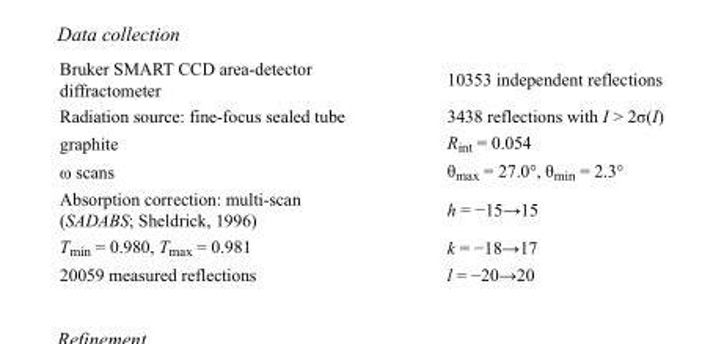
<table><tbody><tr><td>Bruker SMART CCD area-detector diffractometer</td><td>10353 independent reflections</td></tr><tr><td>Radiation source: fine-focus sealed tube</td><td>3438 reflections with I &gt; 2σ(I)</td></tr><tr><td>graphite</td><td>R<sub>int</sub> = 0.054</td></tr><tr><td>ω scans</td><td>θ<sub>max</sub> = 27.0°, θ<sub>min</sub> = 2.3°</td></tr><tr><td>Absorption correction: multi-scan (SADABS; Sheldrick, 1996)</td><td>h = −15→15</td></tr><tr><td>T<sub>min</sub> = 0.980, T<sub>max</sub> = 0.981</td><td>k = −18→17</td></tr><tr><td>20059 measured reflections</td><td>l = −20→20</td></tr></tbody></table>